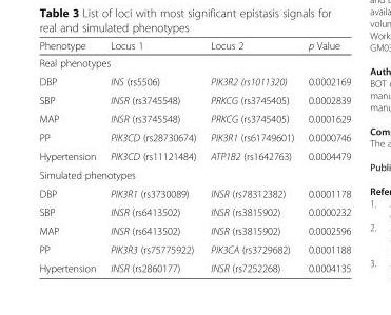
<table><thead><tr><td>Phenotype</td><td>Locus 1</td><td>Locus 2</td><td>p Value</td></tr></thead><tbody><tr><td colspan="4">Real phenotypes</td></tr><tr><td>DBP</td><td>INS (rs5506)</td><td>PIK3R2 (rs1011320)</td><td>0.0002169</td></tr><tr><td>SBP</td><td>INSR (rs3745548)</td><td>PRKCG (rs3745405)</td><td>0.0002839</td></tr><tr><td>MAP</td><td>INSR (rs3745548)</td><td>PRKCG (rs3745405)</td><td>0.0001629</td></tr><tr><td>PP</td><td>PIK3CD (rs28730674)</td><td>PIK3R1 (rs61749601)</td><td>0.0000746</td></tr><tr><td>Hypertension</td><td>PIK3CD (rs11121484)</td><td>ATP1B2 (rs1642763)</td><td>0.0004479</td></tr><tr><td colspan="4">Simulated phenotypes</td></tr><tr><td>DBP</td><td>PIK3R1 (rs3730089)</td><td>INSR (rs78312382)</td><td>0.0001178</td></tr><tr><td>SBP</td><td>INSR (rs6413502)</td><td>INSR (rs3815902)</td><td>0.0000232</td></tr><tr><td>MAP</td><td>INSR (rs6413502)</td><td>INSR (rs3815902)</td><td>0.0002596</td></tr><tr><td>PP</td><td>PIK3R3 (rs75775922)</td><td>PIK3CA (rs3729682)</td><td>0.0001188</td></tr><tr><td>Hypertension</td><td>INSR (rs2860177)</td><td>INSR (rs7252268)</td><td>0.0004135</td></tr></tbody></table>